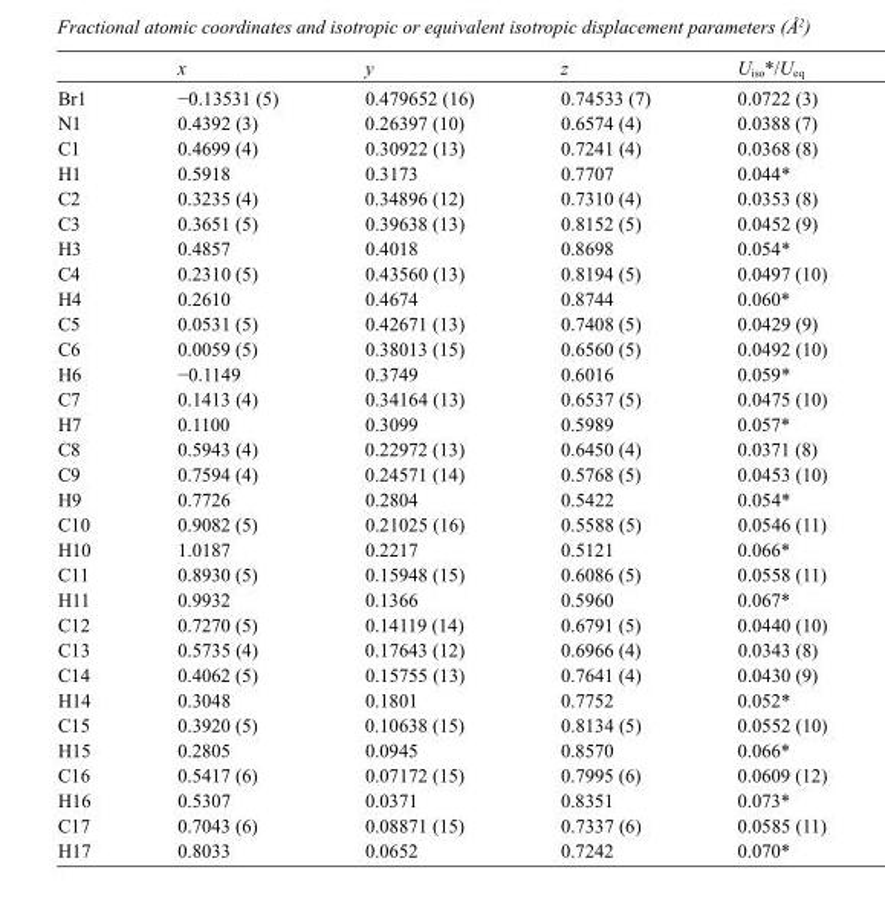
<table><thead><tr><td></td><td>x</td><td>y</td><td>z</td><td>U<sub>iso</sub>*/U<sub>eq</sub></td></tr></thead><tbody><tr><td>Br1</td><td>−0.13531 (5)</td><td>0.479652 (16)</td><td>0.74533 (7)</td><td>0.0722 (3)</td></tr><tr><td>N1</td><td>0.4392 (3)</td><td>0.26397 (10)</td><td>0.6574 (4)</td><td>0.0388 (7)</td></tr><tr><td>C1</td><td>0.4699 (4)</td><td>0.30922 (13)</td><td>0.7241 (4)</td><td>0.0368 (8)</td></tr><tr><td>H1</td><td>0.5918</td><td>0.3173</td><td>0.7707</td><td>0.044*</td></tr><tr><td>C2</td><td>0.3235 (4)</td><td>0.34896 (12)</td><td>0.7310 (4)</td><td>0.0353 (8)</td></tr><tr><td>C3</td><td>0.3651 (5)</td><td>0.39638 (13)</td><td>0.8152 (5)</td><td>0.0452 (9)</td></tr><tr><td>H3</td><td>0.4857</td><td>0.4018</td><td>0.8698</td><td>0.054*</td></tr><tr><td>C4</td><td>0.2310 (5)</td><td>0.43560 (13)</td><td>0.8194 (5)</td><td>0.0497 (10)</td></tr><tr><td>H4</td><td>0.2610</td><td>0.4674</td><td>0.8744</td><td>0.060*</td></tr><tr><td>C5</td><td>0.0531 (5)</td><td>0.42671 (13)</td><td>0.7408 (5)</td><td>0.0429 (9)</td></tr><tr><td>C6</td><td>0.0059 (5)</td><td>0.38013 (15)</td><td>0.6560 (5)</td><td>0.0492 (10)</td></tr><tr><td>H6</td><td>−0.1149</td><td>0.3749</td><td>0.6016</td><td>0.059*</td></tr><tr><td>C7</td><td>0.1413 (4)</td><td>0.34164 (13)</td><td>0.6537 (5)</td><td>0.0475 (10)</td></tr><tr><td>H7</td><td>0.1100</td><td>0.3099</td><td>0.5989</td><td>0.057*</td></tr><tr><td>C8</td><td>0.5943 (4)</td><td>0.22972 (13)</td><td>0.6450 (4)</td><td>0.0371 (8)</td></tr><tr><td>C9</td><td>0.7594 (4)</td><td>0.24571 (14)</td><td>0.5768 (5)</td><td>0.0453 (10)</td></tr><tr><td>H9</td><td>0.7726</td><td>0.2804</td><td>0.5422</td><td>0.054*</td></tr><tr><td>C10</td><td>0.9082 (5)</td><td>0.21025 (16)</td><td>0.5588 (5)</td><td>0.0546 (11)</td></tr><tr><td>H10</td><td>1.0187</td><td>0.2217</td><td>0.5121</td><td>0.066*</td></tr><tr><td>C11</td><td>0.8930 (5)</td><td>0.15948 (15)</td><td>0.6086 (5)</td><td>0.0558 (11)</td></tr><tr><td>H11</td><td>0.9932</td><td>0.1366</td><td>0.5960</td><td>0.067*</td></tr><tr><td>C12</td><td>0.7270 (5)</td><td>0.14119 (14)</td><td>0.6791 (5)</td><td>0.0440 (10)</td></tr><tr><td>C13</td><td>0.5735 (4)</td><td>0.17643 (12)</td><td>0.6966 (4)</td><td>0.0343 (8)</td></tr><tr><td>C14</td><td>0.4062 (5)</td><td>0.15755 (13)</td><td>0.7641 (4)</td><td>0.0430 (9)</td></tr><tr><td>H14</td><td>0.3048</td><td>0.1801</td><td>0.7752</td><td>0.052*</td></tr><tr><td>C15</td><td>0.3920 (5)</td><td>0.10638 (15)</td><td>0.8134 (5)</td><td>0.0552 (10)</td></tr><tr><td>H15</td><td>0.2805</td><td>0.0945</td><td>0.8570</td><td>0.066*</td></tr><tr><td>C16</td><td>0.5417 (6)</td><td>0.07172 (15)</td><td>0.7995 (6)</td><td>0.0609 (12)</td></tr><tr><td>H16</td><td>0.5307</td><td>0.0371</td><td>0.8351</td><td>0.073*</td></tr><tr><td>C17</td><td>0.7043 (6)</td><td>0.08871 (15)</td><td>0.7337 (6)</td><td>0.0585 (11)</td></tr><tr><td>H17</td><td>0.8033</td><td>0.0652</td><td>0.7242</td><td>0.070*</td></tr></tbody></table>